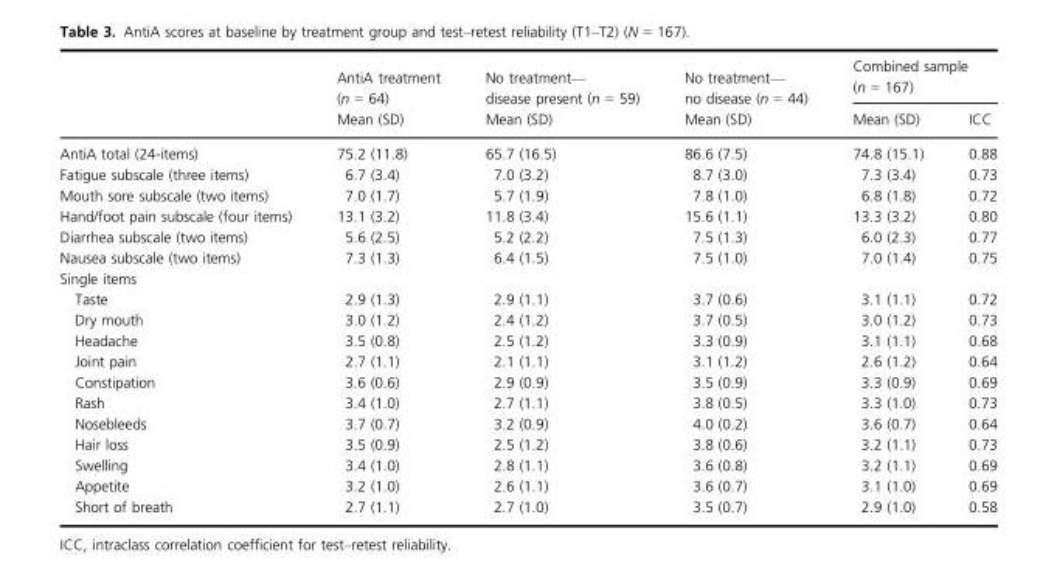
<table><thead><tr><td rowspan="2"></td><td rowspan="2">AntiA treatment (n = 64) Mean (SD)</td><td rowspan="2">No treatment— disease present (n = 59) Mean (SD)</td><td rowspan="2">No treatment— no disease (n = 44) Mean (SD)</td><td colspan="2">Combined sample (n = 167)</td></tr><tr><td>Mean (SD)</td><td>ICC</td></tr></thead><tbody><tr><td>AntiA total (24-items)</td><td>75.2 (11.8)</td><td>65.7 (16.5)</td><td>86.6 (7.5)</td><td>74.8 (15.1)</td><td>0.88</td></tr><tr><td>Fatigue subscale (three items)</td><td>6.7 (3.4)</td><td>7.0 (3.2)</td><td>8.7 (3.0)</td><td>7.3 (3.4)</td><td>0.73</td></tr><tr><td>Mouth sore subscale (two items)</td><td>7.0 (1.7)</td><td>5.7 (1.9)</td><td>7.8 (1.0)</td><td>6.8 (1.8)</td><td>0.72</td></tr><tr><td>Hand/foot pain subscale (four items)</td><td>13.1 (3.2)</td><td>11.8 (3.4)</td><td>15.6 (1.1)</td><td>13.3 (3.2)</td><td>0.80</td></tr><tr><td>Diarrhea subscale (two items)</td><td>5.6 (2.5)</td><td>5.2 (2.2)</td><td>7.5 (1.3)</td><td>6.0 (2.3)</td><td>0.77</td></tr><tr><td>Nausea subscale (two items)</td><td>7.3 (1.3)</td><td>6.4 (1.5)</td><td>7.5 (1.0)</td><td>7.0 (1.4)</td><td>0.75</td></tr><tr><td colspan="6">Single items</td></tr><tr><td>Taste</td><td>2.9 (1.3)</td><td>2.9 (1.1)</td><td>3.7 (0.6)</td><td>3.1 (1.1)</td><td>0.72</td></tr><tr><td>Dry mouth</td><td>3.0 (1.2)</td><td>2.4 (1.2)</td><td>3.7 (0.5)</td><td>3.0 (1.2)</td><td>0.73</td></tr><tr><td>Headache</td><td>3.5 (0.8)</td><td>2.5 (1.2)</td><td>3.3 (0.9)</td><td>3.1 (1.1)</td><td>0.68</td></tr><tr><td>Joint pain</td><td>2.7 (1.1)</td><td>2.1 (1.1)</td><td>3.1 (1.2)</td><td>2.6 (1.2)</td><td>0.64</td></tr><tr><td>Constipation</td><td>3.6 (0.6)</td><td>2.9 (0.9)</td><td>3.5 (0.9)</td><td>3.3 (0.9)</td><td>0.69</td></tr><tr><td>Rash</td><td>3.4 (1.0)</td><td>2.7 (1.1)</td><td>3.8 (0.5)</td><td>3.3 (1.0)</td><td>0.73</td></tr><tr><td>Nosebleeds</td><td>3.7 (0.7)</td><td>3.2 (0.9)</td><td>4.0 (0.2)</td><td>3.6 (0.7)</td><td>0.64</td></tr><tr><td>Hair loss</td><td>3.5 (0.9)</td><td>2.5 (1.2)</td><td>3.8 (0.6)</td><td>3.2 (1.1)</td><td>0.73</td></tr><tr><td>Swelling</td><td>3.4 (1.0)</td><td>2.8 (1.1)</td><td>3.6 (0.8)</td><td>3.2 (1.1)</td><td>0.69</td></tr><tr><td>Appetite</td><td>3.2 (1.0)</td><td>2.6 (1.1)</td><td>3.6 (0.7)</td><td>3.1 (1.0)</td><td>0.69</td></tr><tr><td>Short of breath</td><td>2.7 (1.1)</td><td>2.7 (1.0)</td><td>3.5 (0.7)</td><td>2.9 (1.0)</td><td>0.58</td></tr></tbody></table>